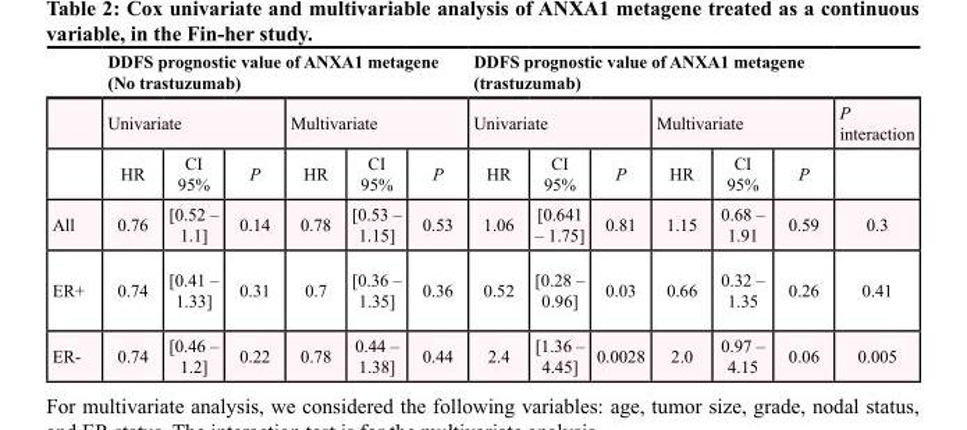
<table><thead><tr><td rowspan="3"></td><td colspan="6">DDFS prognostic value of ANXA1 metagene (No trastuzumab)</td><td colspan="6">DDFS prognostic value of ANXA1 metagene (trastuzumab)</td><td rowspan="3">P interaction</td></tr><tr><td colspan="3">Univariate</td><td colspan="3">Multivariate</td><td colspan="3">Univariate</td><td colspan="3">Multivariate</td></tr><tr><td>HR</td><td>CI 95%</td><td>P</td><td>HR</td><td>CI 95%</td><td>P</td><td>HR</td><td>CI 95%</td><td>P</td><td>HR</td><td>CI 95%</td><td>P</td></tr></thead><tbody><tr><td>All</td><td>0.76</td><td>[0.52 – 1.1]</td><td>0.14</td><td>0.78</td><td>[0.53 – 1.15]</td><td>0.53</td><td>1.06</td><td>[0.641 – 1.75]</td><td>0.81</td><td>1.15</td><td>0.68 – 1.91</td><td>0.59</td><td>0.3</td></tr><tr><td>ER+</td><td>0.74</td><td>[0.41 – 1.33]</td><td>0.31</td><td>0.7</td><td>[0.36 – 1.35]</td><td>0.36</td><td>0.52</td><td>[0.28 – 0.96]</td><td>0.03</td><td>0.66</td><td>0.32 – 1.35</td><td>0.26</td><td>0.41</td></tr><tr><td>ER-</td><td>0.74</td><td>[0.46 – 1.2]</td><td>0.22</td><td>0.78</td><td>0.44 – 1.38]</td><td>0.44</td><td>2.4</td><td>[1.36 – 4.45]</td><td>0.0028</td><td>2.0</td><td>0.97 – 4.15</td><td>0.06</td><td>0.005</td></tr></tbody></table>